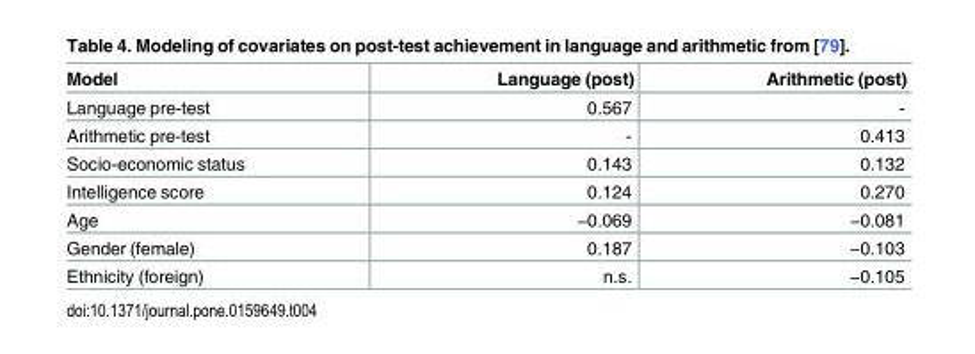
<table><thead><tr><td>Model</td><td>Language (post)</td><td>Arithmetic (post)</td></tr></thead><tbody><tr><td>Language pre-test</td><td>0.567</td><td>-</td></tr><tr><td>Arithmetic pre-test</td><td>-</td><td>0.413</td></tr><tr><td>Socio-economic status</td><td>0.143</td><td>0.132</td></tr><tr><td>Intelligence score</td><td>0.124</td><td>0.270</td></tr><tr><td>Age</td><td>−0.069</td><td>−0.081</td></tr><tr><td>Gender (female)</td><td>0.187</td><td>−0.103</td></tr><tr><td>Ethnicity (foreign)</td><td>n.s.</td><td>−0.105</td></tr></tbody></table>